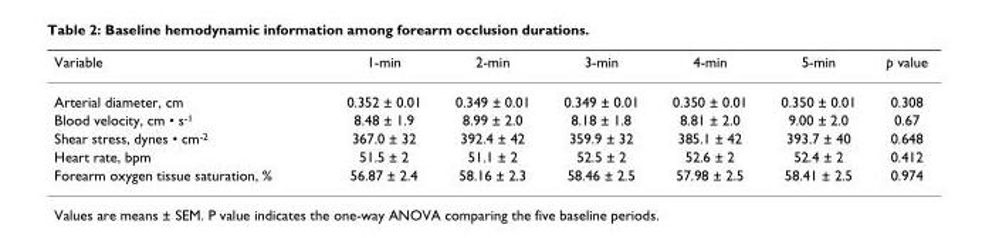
<table><thead><tr><td>Variable</td><td>1-min</td><td>2-min</td><td>3-min</td><td>4-min</td><td>5-min</td><td>p value</td></tr></thead><tbody><tr><td>Arterial diameter, cm</td><td>0.352 ± 0.01</td><td>0.349 ± 0.01</td><td>0.349 ± 0.01</td><td>0.350 ± 0.01</td><td>0.350 ± 0.01</td><td>0.308</td></tr><tr><td>Blood velocity, cm • s<sup>-1</sup></td><td>8.48 ± 1.9</td><td>8.99 ± 2.0</td><td>8.18 ± 1.8</td><td>8.81 ± 2.0</td><td>9.00 ± 2.0</td><td>0.67</td></tr><tr><td>Shear stress, dynes • cm<sup>-2</sup></td><td>367.0 ± 32</td><td>392.4 ± 42</td><td>359.9 ± 32</td><td>385.1 ± 42</td><td>393.7 ± 40</td><td>0.648</td></tr><tr><td>Heart rate, bpm</td><td>51.5 ± 2</td><td>51.1 ± 2</td><td>52.5 ± 2</td><td>52.6 ± 2</td><td>52.4 ± 2</td><td>0.412</td></tr><tr><td>Forearm oxygen tissue saturation, %</td><td>56.87 ± 2.4</td><td>58.16 ± 2.3</td><td>58.46 ± 2.5</td><td>57.98 ± 2.5</td><td>58.41 ± 2.5</td><td>0.974</td></tr></tbody></table>